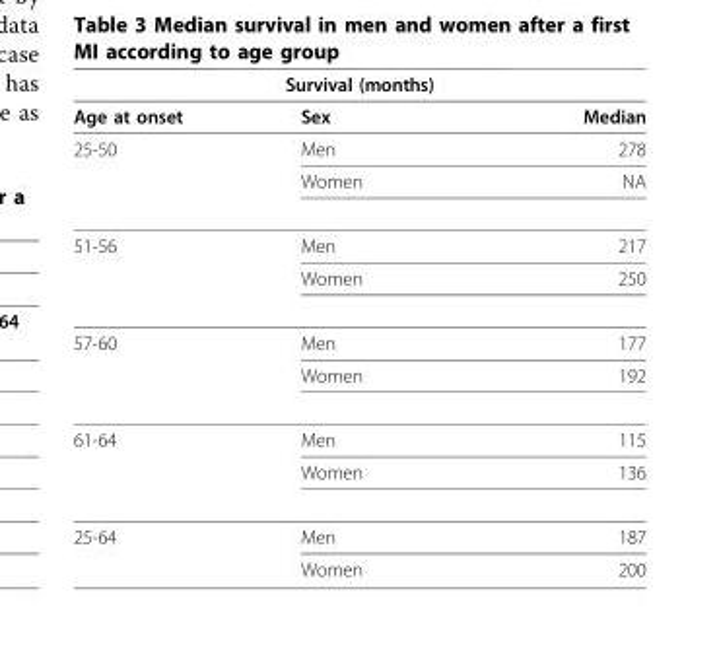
<table><thead><tr><td colspan="3">Survival (months)</td></tr><tr><td>Age at onset</td><td>Sex</td><td>Median</td></tr></thead><tbody><tr><td rowspan="2">25-50</td><td>Men</td><td>278</td></tr><tr><td>Women</td><td>NA</td></tr><tr><td rowspan="2">51-56</td><td>Men</td><td>217</td></tr><tr><td>Women</td><td>250</td></tr><tr><td rowspan="2">57-60</td><td>Men</td><td>177</td></tr><tr><td>Women</td><td>192</td></tr><tr><td rowspan="2">61-64</td><td>Men</td><td>115</td></tr><tr><td>Women</td><td>136</td></tr><tr><td rowspan="2">25-64</td><td>Men</td><td>187</td></tr><tr><td>Women</td><td>200</td></tr></tbody></table>